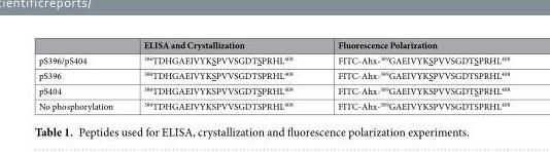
<table><thead><tr><td></td><td>ELISA and Crystallization</td><td>Fluorescence Polarization</td></tr></thead><tbody><tr><td>pS396/pS404</td><td><sup>386</sup>TDHGAEIVYKSPVVSGDTSPRHL<sup>408</sup></td><td>FITC-Ahx-<sup>389</sup>GAEIVYKSPVVSGDTSPRHL<sup>408</sup></td></tr><tr><td>pS396</td><td><sup>386</sup>TDHGAEIVYKSPVVSGDTSPRHL<sup>408</sup></td><td>FITC-Ahx-<sup>389</sup>GAEIVYKSPVVSGDTSPRHL<sup>408</sup></td></tr><tr><td>pS404</td><td><sup>386</sup>TDHGAEIVYKSPVVSGDTSPRHL<sup>408</sup></td><td>FITC-Ahx-<sup>389</sup>GAEIVYKSPVVSGDTSPRHL<sup>408</sup></td></tr><tr><td>No phosphorylation</td><td><sup>386</sup>TDHGAEIVYKSPVVSGDTSPRHL<sup>408</sup></td><td>FITC-Ahx-<sup>389</sup>GAEIVYKSPVVSGDTSPRHL<sup>408</sup></td></tr></tbody></table>